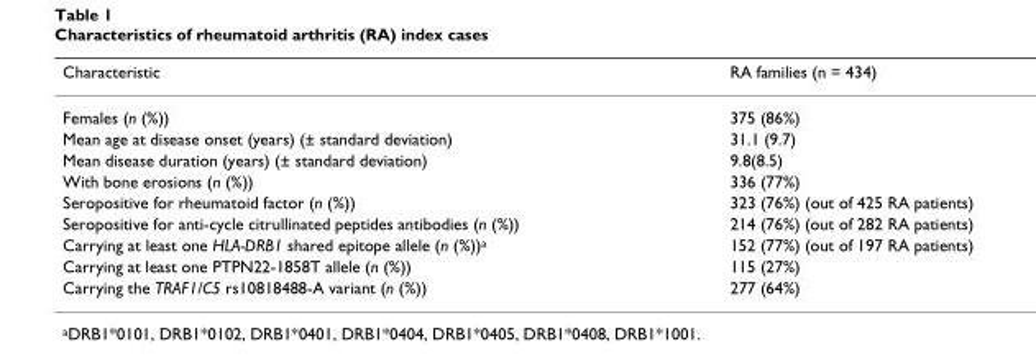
<table><thead><tr><td>Characteristic</td><td>RA families (n = 434)</td></tr></thead><tbody><tr><td>Females (n (%))</td><td>375 (86%)</td></tr><tr><td>Mean age at disease onset (years) (± standard deviation)</td><td>31.1 (9.7)</td></tr><tr><td>Mean disease duration (years) (± standard deviation)</td><td>9.8(8.5)</td></tr><tr><td>With bone erosions (n (%))</td><td>336 (77%)</td></tr><tr><td>Seropositive for rheumatoid factor (n (%))</td><td>323 (76%) (out of 425 RA patients)</td></tr><tr><td>Seropositive for anti-cycle citrullinated peptides antibodies (n (%))</td><td>214 (76%) (out of 282 RA patients)</td></tr><tr><td>Carrying at least one HLA-DRB1 shared epitope allele (n (%))<sup>a</sup></td><td>152 (77%) (out of 197 RA patients)</td></tr><tr><td>Carrying at least one PTPN22-1858T allele (n (%))</td><td>115 (27%)</td></tr><tr><td>Carrying the TRAF1/C5 rs10818488-A variant (n (%))</td><td>277 (64%)</td></tr></tbody></table>